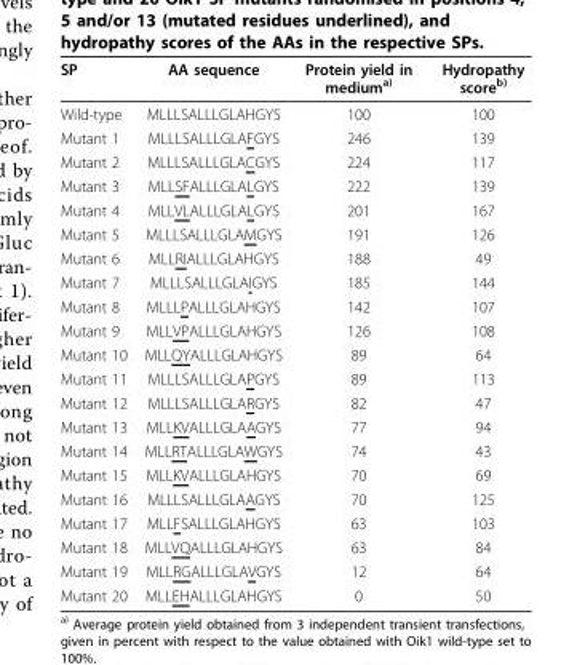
<table><thead><tr><td>SP</td><td>AA sequence</td><td>Protein yield in medium<sup>a)</sup></td><td>Hydropathy score<sup>b)</sup></td></tr></thead><tbody><tr><td>Wild-type</td><td>MLLLSALLLGLAHGYS</td><td>100</td><td>100</td></tr><tr><td>Mutant 1</td><td>MLLLSALLLGLAFGYS</td><td>246</td><td>139</td></tr><tr><td>Mutant 2</td><td>MLLLSALLLGLACGYS</td><td>224</td><td>117</td></tr><tr><td>Mutant 3</td><td>MLLSFALLLGLALGYS</td><td>222</td><td>139</td></tr><tr><td>Mutant 4</td><td>MLLVLALLLGLALGYS</td><td>201</td><td>167</td></tr><tr><td>Mutant 5</td><td>MLLLSALLLGLAMGYS</td><td>191</td><td>126</td></tr><tr><td>Mutant 6</td><td>MLLRIALLLGLAHGYS</td><td>188</td><td>49</td></tr><tr><td>Mutant 7</td><td>MLLLSALLLGLAIGYS</td><td>185</td><td>144</td></tr><tr><td>Mutant 8</td><td>MLLLPALLLGLAHGYS</td><td>142</td><td>107</td></tr><tr><td>Mutant 9</td><td>MLLVPALLLGLAHGYS</td><td>126</td><td>108</td></tr><tr><td>Mutant 10</td><td>MLLQYALLLGLAHGYS</td><td>89</td><td>64</td></tr><tr><td>Mutant 11</td><td>MLLLSALLLGLAPGYS</td><td>89</td><td>113</td></tr><tr><td>Mutant 12</td><td>MLLLSALLLGLARGYS</td><td>82</td><td>47</td></tr><tr><td>Mutant 13</td><td>MLLKVALLLGLAAGYS</td><td>77</td><td>94</td></tr><tr><td>Mutant 14</td><td>MLLRTALLLGLAWGYS</td><td>74</td><td>43</td></tr><tr><td>Mutant 15</td><td>MLLKVALLLGLAHGYS</td><td>70</td><td>69</td></tr><tr><td>Mutant 16</td><td>MLLLSALLLGLAAGYS</td><td>70</td><td>125</td></tr><tr><td>Mutant 17</td><td>MLLFSALLLGLAHGYS</td><td>63</td><td>103</td></tr><tr><td>Mutant 18</td><td>MLLVQALLLGLAHGYS</td><td>63</td><td>84</td></tr><tr><td>Mutant 19</td><td>MLLRGALLLGLAVGYS</td><td>12</td><td>64</td></tr><tr><td>Mutant 20</td><td>MLLEHALLLGLAHGYS</td><td>0</td><td>50</td></tr></tbody></table>